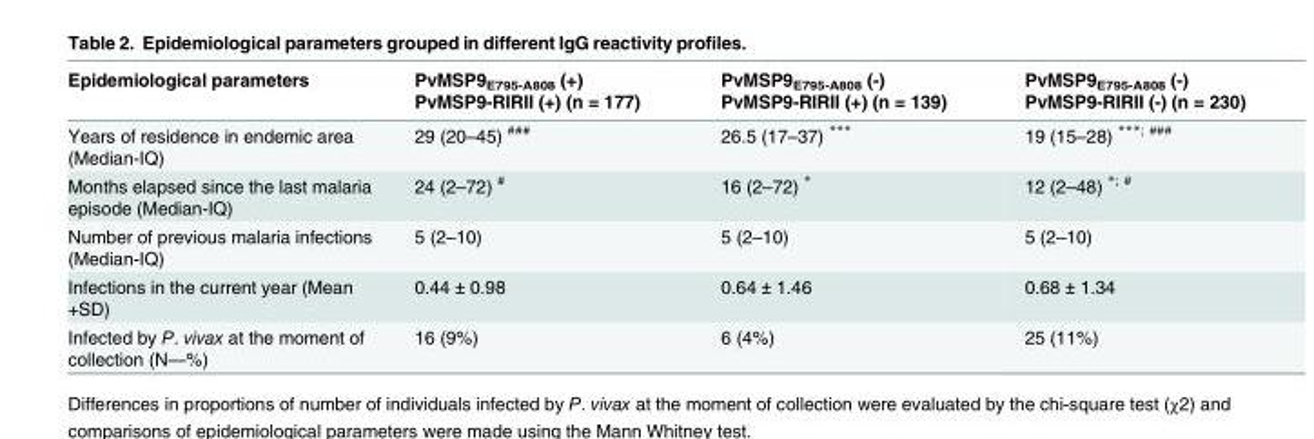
<table><thead><tr><td>Epidemiological parameters</td><td>PvMSP9<sub>E795-A808</sub> (+) PvMSP9-RIRII (+) (n = 177)</td><td>PvMSP9<sub>E795-A808</sub> (-) PvMSP9-RIRII (+) (n = 139)</td><td>PvMSP9<sub>E795-A808</sub> (-) PvMSP9-RIRII (-) (n = 230)</td></tr></thead><tbody><tr><td>Years of residence in endemic area (Median-IQ)</td><td>29 (20–45) <sup>###</sup></td><td>26.5 (17–37) ***</td><td>19 (15–28) <sup>***; ###</sup></td></tr><tr><td>Months elapsed since the last malaria episode (Median-IQ)</td><td>24 (2–72) <sup>#</sup></td><td>16 (2–72) *</td><td>12 (2–48) <sup>*; #</sup></td></tr><tr><td>Number of previous malaria infections (Median-IQ)</td><td>5 (2–10)</td><td>5 (2–10)</td><td>5 (2–10)</td></tr><tr><td>Infections in the current year (Mean +SD)</td><td>0.44 ± 0.98</td><td>0.64 ± 1.46</td><td>0.68 ± 1.34</td></tr><tr><td>Infected by P. vivax at the moment of collection (N—%)</td><td>16 (9%)</td><td>6 (4%)</td><td>25 (11%)</td></tr></tbody></table>